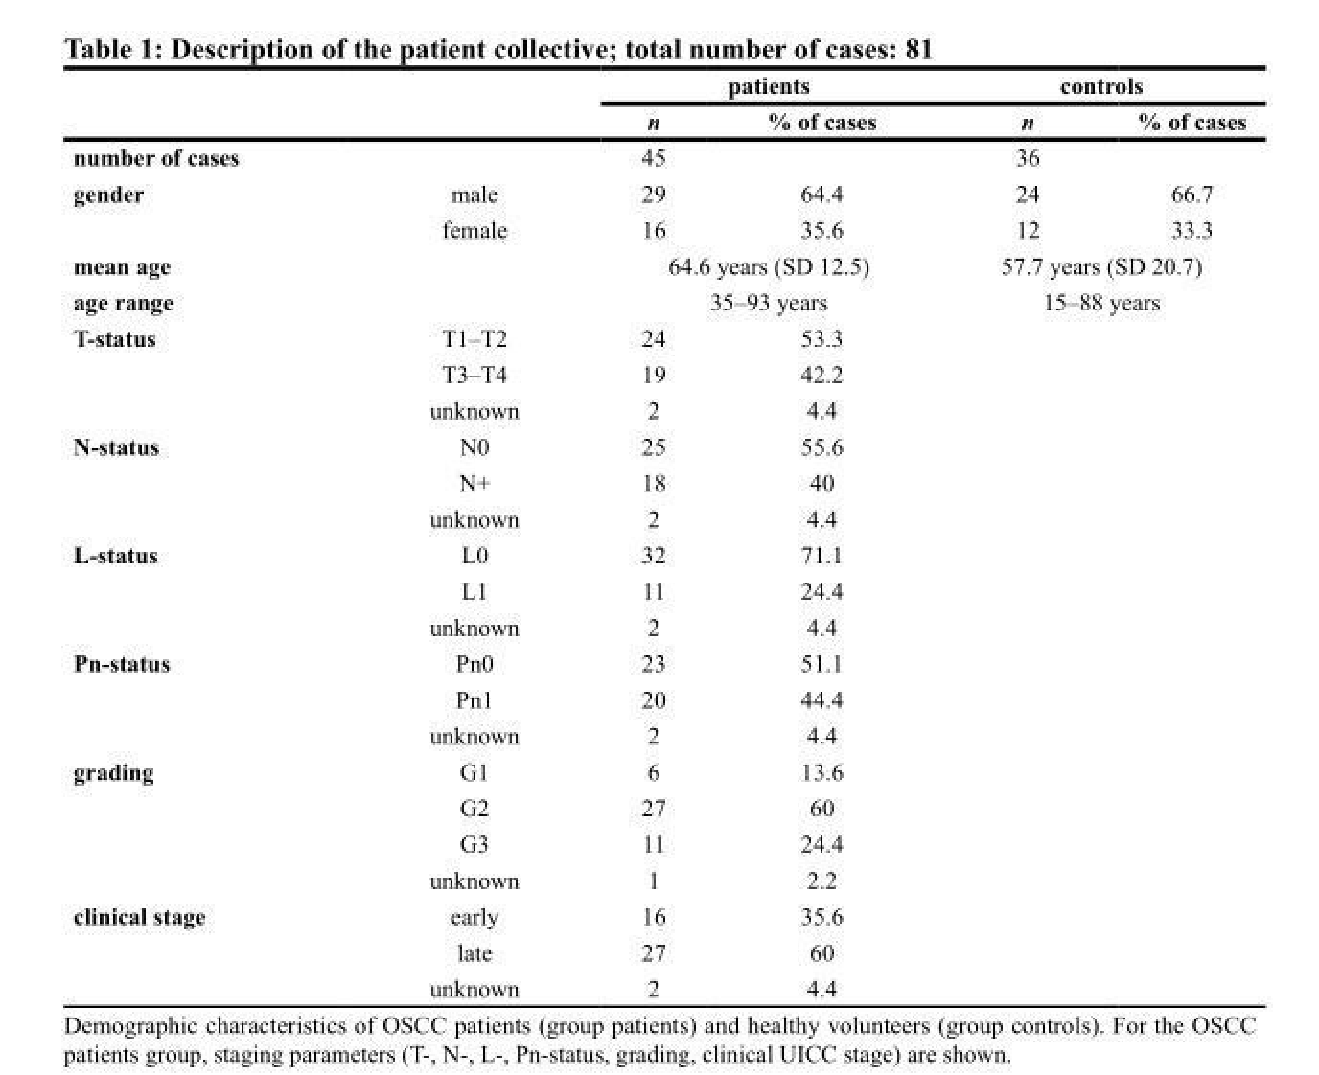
<table><thead><tr><td rowspan="2"></td><td rowspan="2"></td><td colspan="2">patients</td><td colspan="2">controls</td></tr><tr><td>n</td><td>% of cases</td><td>n</td><td>% of cases</td></tr></thead><tbody><tr><td>number of cases</td><td></td><td>45</td><td></td><td>36</td><td></td></tr><tr><td rowspan="2">gender</td><td>male</td><td>29</td><td>64.4</td><td>24</td><td>66.7</td></tr><tr><td>female</td><td>16</td><td>35.6</td><td>12</td><td>33.3</td></tr><tr><td>mean age</td><td></td><td colspan="2">64.6 years (SD 12.5)</td><td colspan="2">57.7 years (SD 20.7)</td></tr><tr><td>age range</td><td></td><td colspan="2">35–93 years</td><td colspan="2">15–88 years</td></tr><tr><td rowspan="3">T-status</td><td>T1–T2</td><td>24</td><td>53.3</td><td></td><td></td></tr><tr><td>T3–T4</td><td>19</td><td>42.2</td><td></td><td></td></tr><tr><td>unknown</td><td>2</td><td>4.4</td><td></td><td></td></tr><tr><td rowspan="3">N-status</td><td>N0</td><td>25</td><td>55.6</td><td></td><td></td></tr><tr><td>N+</td><td>18</td><td>40</td><td></td><td></td></tr><tr><td>unknown</td><td>2</td><td>4.4</td><td></td><td></td></tr><tr><td rowspan="3">L-status</td><td>L0</td><td>32</td><td>71.1</td><td></td><td></td></tr><tr><td>L1</td><td>11</td><td>24.4</td><td></td><td></td></tr><tr><td>unknown</td><td>2</td><td>4.4</td><td></td><td></td></tr><tr><td rowspan="3">Pn-status</td><td>Pn0</td><td>23</td><td>51.1</td><td></td><td></td></tr><tr><td>Pn1</td><td>20</td><td>44.4</td><td></td><td></td></tr><tr><td>unknown</td><td>2</td><td>4.4</td><td></td><td></td></tr><tr><td rowspan="4">grading</td><td>G1</td><td>6</td><td>13.6</td><td></td><td></td></tr><tr><td>G2</td><td>27</td><td>60</td><td></td><td></td></tr><tr><td>G3</td><td>11</td><td>24.4</td><td></td><td></td></tr><tr><td>unknown</td><td>1</td><td>2.2</td><td></td><td></td></tr><tr><td rowspan="3">clinical stage</td><td>early</td><td>16</td><td>35.6</td><td></td><td></td></tr><tr><td>late</td><td>27</td><td>60</td><td></td><td></td></tr><tr><td>unknown</td><td>2</td><td>4.4</td><td></td><td></td></tr></tbody></table>